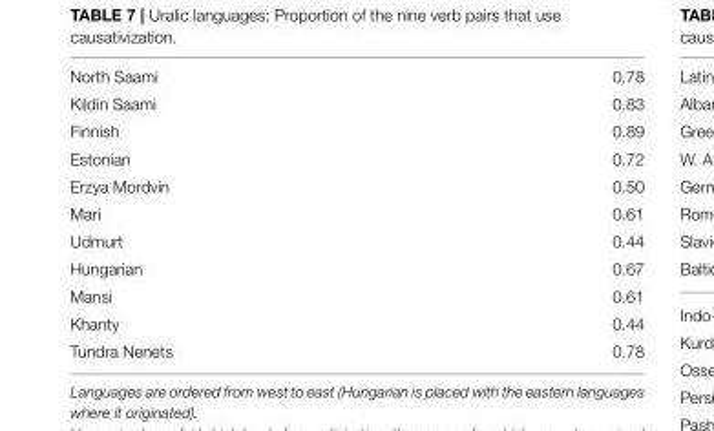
<table><tbody><tr><td>North Saami</td><td>0.78</td></tr><tr><td>Kildin Saami</td><td>0.83</td></tr><tr><td>Finnish</td><td>0.89</td></tr><tr><td>Estonian</td><td>0.72</td></tr><tr><td>Erzya Mordvin</td><td>0.50</td></tr><tr><td>Mari</td><td>0.61</td></tr><tr><td>Udmurt</td><td>0.44</td></tr><tr><td>Hungarian</td><td>0.67</td></tr><tr><td>Mansi</td><td>0.61</td></tr><tr><td>Khanty</td><td>0.44</td></tr><tr><td>Tundra Nenets</td><td>0.78</td></tr></tbody></table>